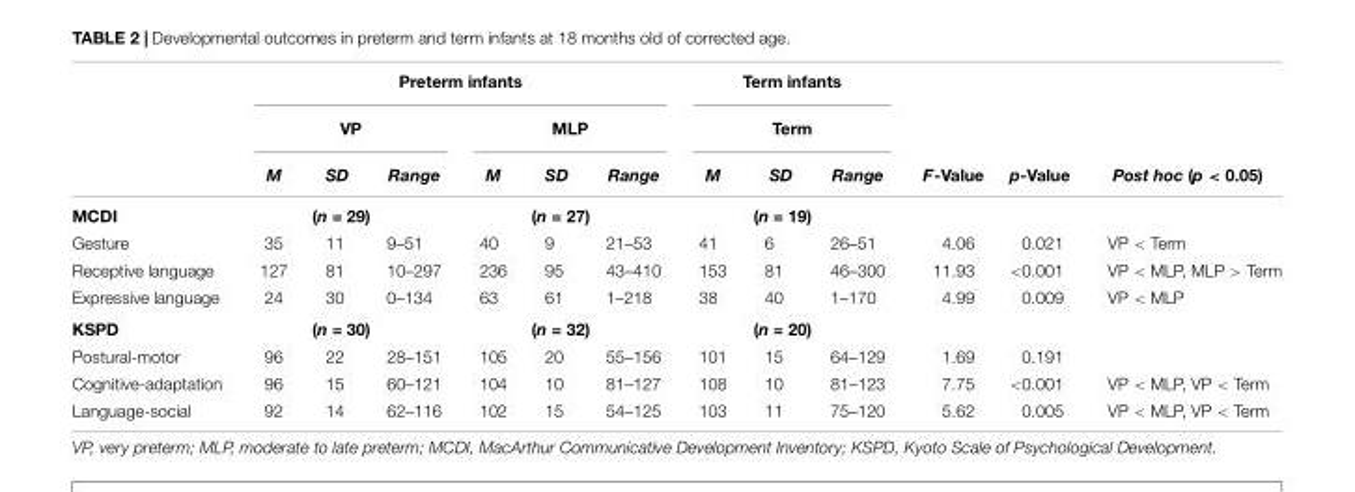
<table><thead><tr><td rowspan="3"></td><td colspan="6">Preterm infants</td><td rowspan="2" colspan="3">Term infants Term</td><td rowspan="3">F-Value</td><td rowspan="3">p-Value</td><td rowspan="3">Post hoc (p &lt; 0.05)</td></tr><tr><td colspan="3">VP</td><td colspan="3">MLP</td></tr><tr><td>M</td><td>SD</td><td>Range</td><td>M</td><td>SD</td><td>Range</td><td>M</td><td>SD</td><td>Range</td></tr></thead><tbody><tr><td>MCDI</td><td colspan="3">(n = 29)</td><td colspan="3">(n = 27)</td><td colspan="3">(n = 19)</td><td></td><td></td><td></td></tr><tr><td>Gesture</td><td>35</td><td>11</td><td>9–51</td><td>40</td><td>9</td><td>21–53</td><td>41</td><td>6</td><td>26–51</td><td>4.06</td><td>0.021</td><td>VP &lt; Term</td></tr><tr><td>Receptive language</td><td>127</td><td>81</td><td>10–297</td><td>236</td><td>95</td><td>43–410</td><td>153</td><td>81</td><td>46–300</td><td>11.93</td><td>&lt;0.001</td><td>VP &lt; MLP, MLP &gt; Term</td></tr><tr><td>Expressive language</td><td>24</td><td>30</td><td>0–134</td><td>63</td><td>61</td><td>1–218</td><td>38</td><td>40</td><td>1–170</td><td>4.99</td><td>0.009</td><td>VP &lt; MLP</td></tr><tr><td>KSPD</td><td colspan="3">(n = 30)</td><td colspan="3">(n = 32)</td><td colspan="3">(n = 20)</td><td></td><td></td><td></td></tr><tr><td>Postural-motor</td><td>96</td><td>22</td><td>28–151</td><td>105</td><td>20</td><td>55–156</td><td>101</td><td>15</td><td>64–129</td><td>1.69</td><td>0.191</td><td></td></tr><tr><td>Cognitive-adaptation</td><td>96</td><td>15</td><td>60–121</td><td>104</td><td>10</td><td>81–127</td><td>108</td><td>10</td><td>81–123</td><td>7.75</td><td>&lt;0.001</td><td>VP &lt; MLP, VP &lt; Term</td></tr><tr><td>Language-social</td><td>92</td><td>14</td><td>62–116</td><td>102</td><td>15</td><td>54–125</td><td>103</td><td>11</td><td>75–120</td><td>5.62</td><td>0.005</td><td>VP &lt; MLP, VP &lt; Term</td></tr></tbody></table>